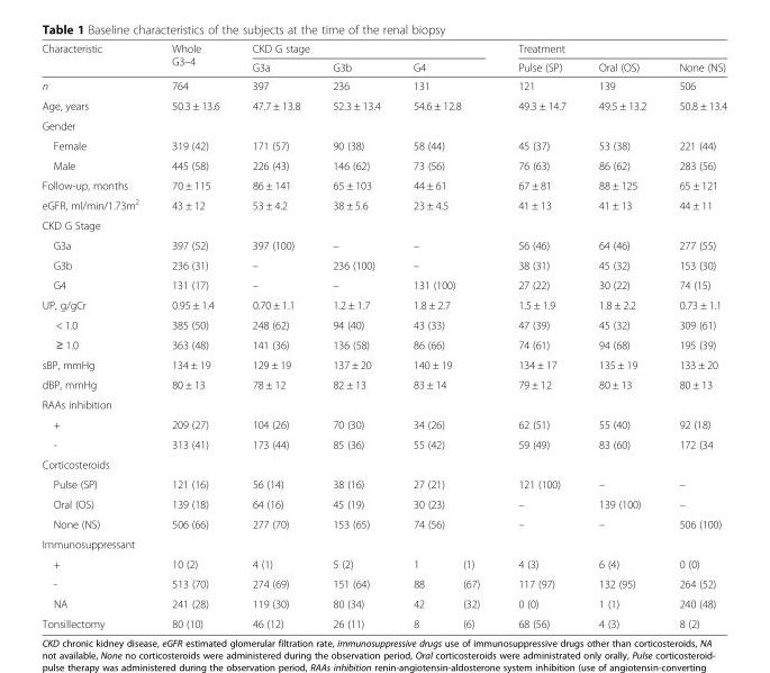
<table><thead><tr><td rowspan="2">Characteristic</td><td rowspan="2">Whole G3–4</td><td colspan="4">CKD G stage</td><td colspan="3">Treatment</td></tr><tr><td>G3a</td><td>G3b</td><td colspan="2">G4</td><td>Pulse (SP)</td><td>Oral (OS)</td><td>None (NS)</td></tr></thead><tbody><tr><td>n</td><td>764</td><td>397</td><td>236</td><td colspan="2">131</td><td>121</td><td>139</td><td>506</td></tr><tr><td>Age, years</td><td>50.3 ± 13.6</td><td>47.7 ± 13.8</td><td>52.3 ± 13.4</td><td colspan="2">54.6 ± 12.8</td><td>49.3 ± 14.7</td><td>49.5 ± 13.2</td><td>50.8 ± 13.4</td></tr><tr><td colspan="9">Gender</td></tr><tr><td>Female</td><td>319 (42)</td><td>171 (57)</td><td>90 (38)</td><td colspan="2">58 (44)</td><td>45 (37)</td><td>53 (38)</td><td>221 (44)</td></tr><tr><td>Male</td><td>445 (58)</td><td>226 (43)</td><td>146 (62)</td><td colspan="2">73 (56)</td><td>76 (63)</td><td>86 (62)</td><td>283 (56)</td></tr><tr><td>Follow-up, months</td><td>70 ± 115</td><td>86 ± 141</td><td>65 ± 103</td><td colspan="2">44 ± 61</td><td>67 ± 81</td><td>88 ± 125</td><td>65 ± 121</td></tr><tr><td>eGFR, ml/min/1.73m<sup>2</sup></td><td>43 ± 12</td><td>53 ± 4.2</td><td>38 ± 5.6</td><td colspan="2">23 ± 4.5</td><td>41 ± 13</td><td>41 ± 13</td><td>44 ± 11</td></tr><tr><td colspan="9">CKD G Stage</td></tr><tr><td>G3a</td><td>397 (52)</td><td>397 (100)</td><td>–</td><td colspan="2">–</td><td>56 (46)</td><td>64 (46)</td><td>277 (55)</td></tr><tr><td>G3b</td><td>236 (31)</td><td>–</td><td>236 (100)</td><td colspan="2">–</td><td>38 (31)</td><td>45 (32)</td><td>153 (30)</td></tr><tr><td>G4</td><td>131 (17)</td><td>–</td><td>–</td><td colspan="2">131 (100)</td><td>27 (22)</td><td>30 (22)</td><td>74 (15)</td></tr><tr><td>UP, g/gCr</td><td>0.95 ± 1.4</td><td>0.70 ± 1.1</td><td>1.2 ± 1.7</td><td colspan="2">1.8 ± 2.7</td><td>1.5 ± 1.9</td><td>1.8 ± 2.2</td><td>0.73 ± 1.1</td></tr><tr><td>&lt; 1.0</td><td>385 (50)</td><td>248 (62)</td><td>94 (40)</td><td colspan="2">43 (33)</td><td>47 (39)</td><td>45 (32)</td><td>309 (61)</td></tr><tr><td>≥ 1.0</td><td>363 (48)</td><td>141 (36)</td><td>136 (58)</td><td colspan="2">86 (66)</td><td>74 (61)</td><td>94 (68)</td><td>195 (39)</td></tr><tr><td>sBP, mmHg</td><td>134 ± 19</td><td>129 ± 19</td><td>137 ± 20</td><td colspan="2">140 ± 19</td><td>134 ± 17</td><td>135 ± 19</td><td>133 ± 20</td></tr><tr><td>dBP, mmHg</td><td>80 ± 13</td><td>78 ± 12</td><td>82 ± 13</td><td colspan="2">83 ± 14</td><td>79 ± 12</td><td>80 ± 13</td><td>80 ± 13</td></tr><tr><td colspan="9">RAAs inhibition</td></tr><tr><td>+</td><td>209 (27)</td><td>104 (26)</td><td>70 (30)</td><td colspan="2">34 (26)</td><td>62 (51)</td><td>55 (40)</td><td>92 (18)</td></tr><tr><td>-</td><td>313 (41)</td><td>173 (44)</td><td>85 (36)</td><td colspan="2">55 (42)</td><td>59 (49)</td><td>83 (60)</td><td>172 (34</td></tr><tr><td colspan="9">Corticosteroids</td></tr><tr><td>Pulse (SP)</td><td>121 (16)</td><td>56 (14)</td><td>38 (16)</td><td colspan="2">27 (21)</td><td>121 (100)</td><td>–</td><td>–</td></tr><tr><td>Oral (OS)</td><td>139 (18)</td><td>64 (16)</td><td>45 (19)</td><td colspan="2">30 (23)</td><td>–</td><td>139 (100)</td><td>–</td></tr><tr><td>None (NS)</td><td>506 (66)</td><td>277 (70)</td><td>153 (65)</td><td colspan="2">74 (56)</td><td>–</td><td>–</td><td>506 (100)</td></tr><tr><td colspan="9">Immunosuppressant</td></tr><tr><td>+</td><td>10 (2)</td><td>4 (1)</td><td>5 (2)</td><td>1</td><td>(1)</td><td>4 (3)</td><td>6 (4)</td><td>0 (0)</td></tr><tr><td>-</td><td>513 (70)</td><td>274 (69)</td><td>151 (64)</td><td>88</td><td>(67)</td><td>117 (97)</td><td>132 (95)</td><td>264 (52)</td></tr><tr><td>NA</td><td>241 (28)</td><td>119 (30)</td><td>80 (34)</td><td>42</td><td>(32)</td><td>0 (0)</td><td>1 (1)</td><td>240 (48)</td></tr><tr><td>Tonsillectomy</td><td>80 (10)</td><td>46 (12)</td><td>26 (11)</td><td>8</td><td>(6)</td><td>68 (56)</td><td>4 (3)</td><td>8 (2)</td></tr></tbody></table>